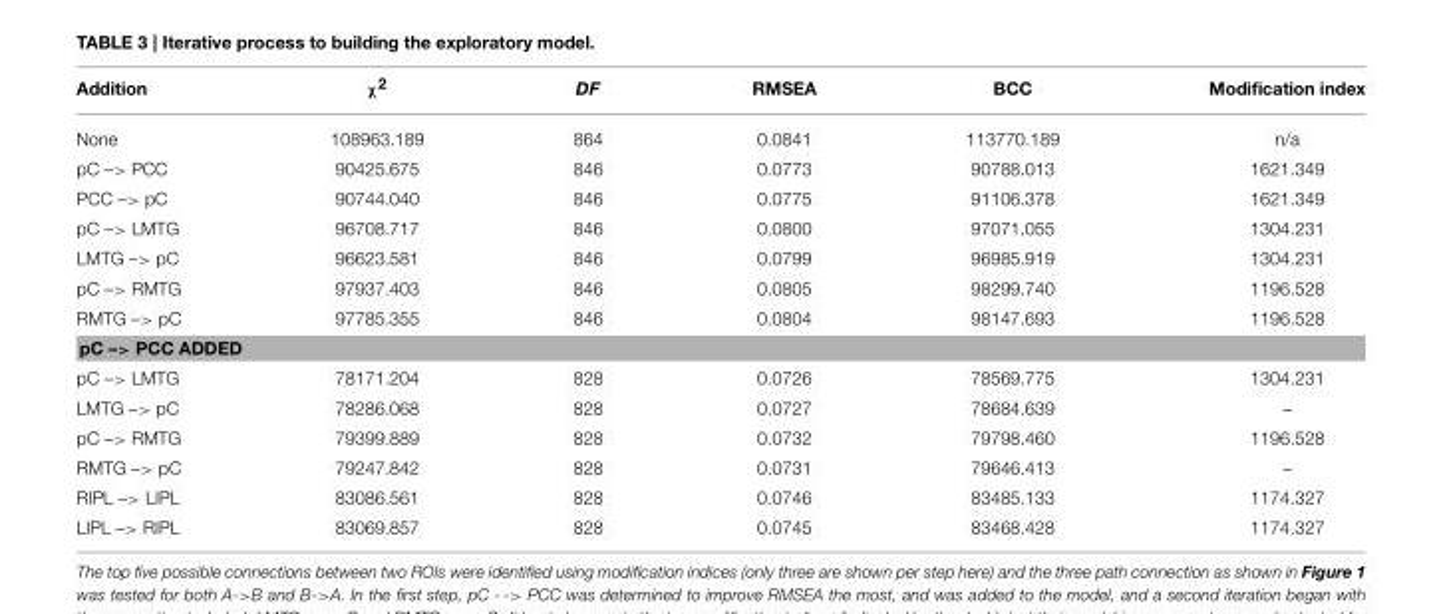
<table><thead><tr><td>Addition</td><td>χ<sup>2</sup></td><td>DF</td><td>RMSEA</td><td>BCC</td><td>Modification index</td></tr></thead><tbody><tr><td>None</td><td>108963.189</td><td>864</td><td>0.0841</td><td>113770.189</td><td>n/a</td></tr><tr><td>pC –&gt; PCC</td><td>90425.675</td><td>846</td><td>0.0773</td><td>90788.013</td><td>1621.349</td></tr><tr><td>PCC –&gt; pC</td><td>90744.040</td><td>846</td><td>0.0775</td><td>91106.378</td><td>1621.349</td></tr><tr><td>pC –&gt; LMTG</td><td>96708.717</td><td>846</td><td>0.0800</td><td>97071.055</td><td>1304.231</td></tr><tr><td>LMTG –&gt; pC</td><td>96623.581</td><td>846</td><td>0.0799</td><td>96985.919</td><td>1304.231</td></tr><tr><td>pC –&gt; RMTG</td><td>97937.403</td><td>846</td><td>0.0805</td><td>98299.740</td><td>1196.528</td></tr><tr><td>RMTG –&gt; pC</td><td>97785.355</td><td>846</td><td>0.0804</td><td>98147.693</td><td>1196.528</td></tr><tr><td colspan="6">pC –&gt; PCC ADDED</td></tr><tr><td>pC –&gt; LMTG</td><td>78171.204</td><td>828</td><td>0.0726</td><td>78569.775</td><td>1304.231</td></tr><tr><td>LMTG –&gt; pC</td><td>78286.068</td><td>828</td><td>0.0727</td><td>78684.639</td><td>–</td></tr><tr><td>pC –&gt; RMTG</td><td>79399.889</td><td>828</td><td>0.0732</td><td>79798.460</td><td>1196.528</td></tr><tr><td>RMTG –&gt; pC</td><td>79247.842</td><td>828</td><td>0.0731</td><td>79646.413</td><td>–</td></tr><tr><td>RIPL –&gt; LIPL</td><td>83086.561</td><td>828</td><td>0.0746</td><td>83485.133</td><td>1174.327</td></tr><tr><td>LIPL –&gt; RIPL</td><td>83069.857</td><td>828</td><td>0.0745</td><td>83468.428</td><td>1174.327</td></tr></tbody></table>